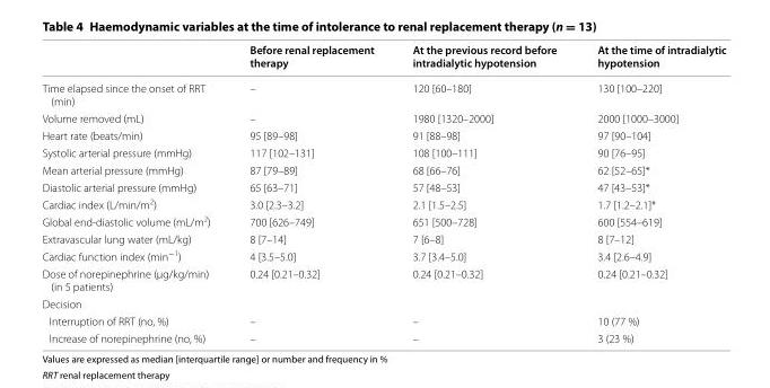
<table><thead><tr><td></td><td>Before renal replacement therapy</td><td>At the previous record before intradialytic hypotension</td><td>At the time of intradialytic hypotension</td></tr></thead><tbody><tr><td>Time elapsed since the onset of RRT (min)</td><td>–</td><td>120 [60–180]</td><td>130 [100–220]</td></tr><tr><td>Volume removed (mL)</td><td>–</td><td>1980 [1320–2000]</td><td>2000 [1000–3000]</td></tr><tr><td>Heart rate (beats/min)</td><td>95 [89–98]</td><td>91 [88–98]</td><td>97 [90–104]</td></tr><tr><td>Systolic arterial pressure (mmHg)</td><td>117 [102–131]</td><td>108 [100–111]</td><td>90 [76–95]</td></tr><tr><td>Mean arterial pressure (mmHg)</td><td>87 [79–89]</td><td>68 [66–76]</td><td>62 [52–65]*</td></tr><tr><td>Diastolic arterial pressure (mmHg)</td><td>65 [63–71]</td><td>57 [48–53]</td><td>47 [43–53]*</td></tr><tr><td>Cardiac index (L/min/m<sup>2</sup>)</td><td>3.0 [2.3–3.2]</td><td>2.1 [1.5–2.5]</td><td>1.7 [1.2–2.1]*</td></tr><tr><td>Global end‑diastolic volume (mL/m<sup>2</sup>)</td><td>700 [626–749]</td><td>651 [500–728]</td><td>600 [554–619]</td></tr><tr><td>Extravascular lung water (mL/kg)</td><td>8 [7–14]</td><td>7 [6–8]</td><td>8 [7–12]</td></tr><tr><td>Cardiac function index (min<sup>−1</sup>)</td><td>4 [3.5–5.0]</td><td>3.7 [3.4–5.0]</td><td>3.4 [2.6–4.9]</td></tr><tr><td>Dose of norepinephrine (µg/kg/min) (in 5 patients)</td><td>0.24 [0.21–0.32]</td><td>0.24 [0.21–0.32]</td><td>0.24 [0.21–0.32]</td></tr><tr><td colspan="4">Decision</td></tr><tr><td>Interruption of RRT (no, %)</td><td>–</td><td>–</td><td>10 (77 %)</td></tr><tr><td>Increase of norepinephrine (no, %)</td><td>–</td><td>–</td><td>3 (23 %)</td></tr></tbody></table>